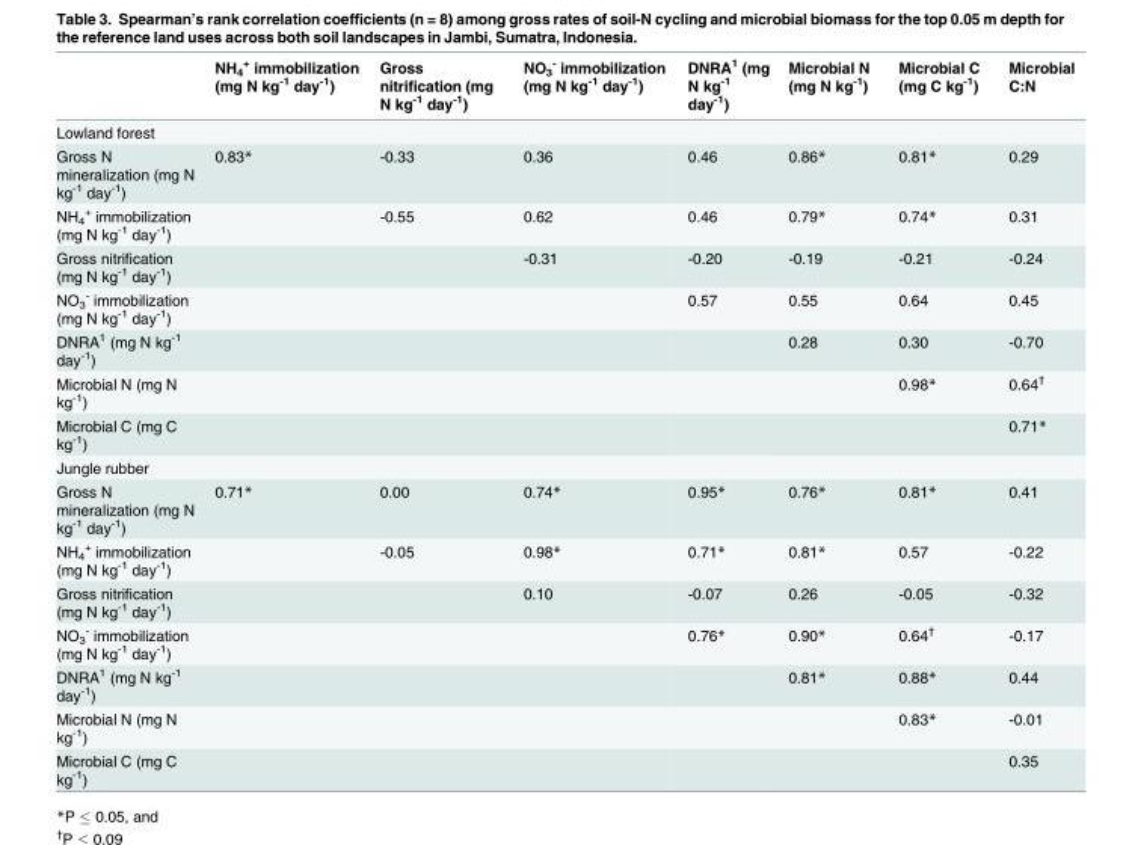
<table><thead><tr><td></td><td>NH<sub>4</sub> <sup>+</sup> immobilization (mg N kg<sup>-1</sup> day<sup>-1</sup>)</td><td>Gross nitrification (mg N kg<sup>-1</sup> day<sup>-1</sup>)</td><td>NO<sub>3</sub> <sup>-</sup> immobilization (mg N kg<sup>-1</sup> day<sup>-1</sup>)</td><td>DNRA<sup>1</sup> (mg N kg<sup>-1</sup> day<sup>-1</sup>)</td><td>Microbial N (mg N kg<sup>-1</sup>)</td><td>Microbial C (mg C kg<sup>-1</sup>)</td><td>Microbial C:N</td></tr></thead><tbody><tr><td colspan="8">Lowland forest</td></tr><tr><td>Gross N mineralization (mg N kg<sup>-1</sup> day<sup>-1</sup>)</td><td>0.83*</td><td>-0.33</td><td>0.36</td><td>0.46</td><td>0.86*</td><td>0.81*</td><td>0.29</td></tr><tr><td>NH<sub>4</sub> <sup>+</sup> immobilization (mg N kg<sup>-1</sup> day<sup>-1</sup>)</td><td></td><td>-0.55</td><td>0.62</td><td>0.46</td><td>0.79*</td><td>0.74*</td><td>0.31</td></tr><tr><td>Gross nitrification (mg N kg<sup>-1</sup> day<sup>-1</sup>)</td><td></td><td></td><td>-0.31</td><td>-0.20</td><td>-0.19</td><td>-0.21</td><td>-0.24</td></tr><tr><td>NO<sub>3</sub> <sup>-</sup> immobilization (mg N kg<sup>-1</sup> day<sup>-1</sup>)</td><td></td><td></td><td></td><td>0.57</td><td>0.55</td><td>0.64</td><td>0.45</td></tr><tr><td>DNRA<sup>1</sup> (mg N kg<sup>-1</sup> day<sup>-1</sup>)</td><td></td><td></td><td></td><td></td><td>0.28</td><td>0.30</td><td>-0.70</td></tr><tr><td>Microbial N (mg N kg<sup>-1</sup>)</td><td></td><td></td><td></td><td></td><td></td><td>0.98*</td><td>0.64<sup>†</sup></td></tr><tr><td>Microbial C (mg C kg<sup>-1</sup>)</td><td></td><td></td><td></td><td></td><td></td><td></td><td>0.71*</td></tr><tr><td colspan="8">Jungle rubber</td></tr><tr><td>Gross N mineralization (mg N kg<sup>-1</sup> day<sup>-1</sup>)</td><td>0.71*</td><td>0.00</td><td>0.74*</td><td>0.95*</td><td>0.76*</td><td>0.81*</td><td>0.41</td></tr><tr><td>NH<sub>4</sub> <sup>+</sup> immobilization (mg N kg<sup>-1</sup> day<sup>-1</sup>)</td><td></td><td>-0.05</td><td>0.98*</td><td>0.71*</td><td>0.81*</td><td>0.57</td><td>-0.22</td></tr><tr><td>Gross nitrification (mg N kg<sup>-1</sup> day<sup>-1</sup>)</td><td></td><td></td><td>0.10</td><td>-0.07</td><td>0.26</td><td>-0.05</td><td>-0.32</td></tr><tr><td>NO<sub>3</sub> <sup>-</sup> immobilization (mg N kg<sup>-1</sup> day<sup>-1</sup>)</td><td></td><td></td><td></td><td>0.76*</td><td>0.90*</td><td>0.64<sup>†</sup></td><td>-0.17</td></tr><tr><td>DNRA<sup>1</sup> (mg N kg<sup>-1</sup> day<sup>-1</sup>)</td><td></td><td></td><td></td><td></td><td>0.81*</td><td>0.88*</td><td>0.44</td></tr><tr><td>Microbial N (mg N kg<sup>-1</sup>)</td><td></td><td></td><td></td><td></td><td></td><td>0.83*</td><td>-0.01</td></tr><tr><td>Microbial C (mg C kg<sup>-1</sup>)</td><td></td><td></td><td></td><td></td><td></td><td></td><td>0.35</td></tr></tbody></table>